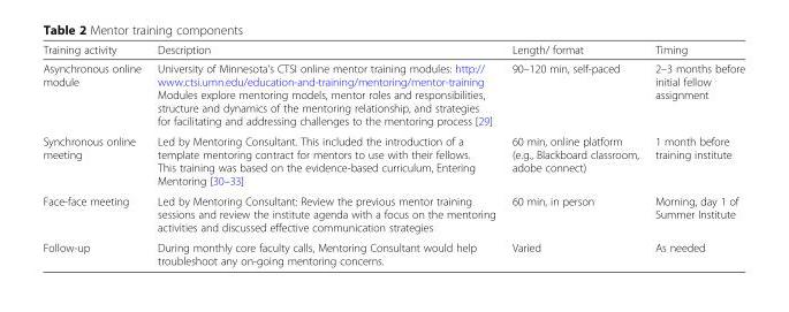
<table><thead><tr><td>Training activity</td><td>Description</td><td>Length/ format</td><td>Timing</td></tr></thead><tbody><tr><td>Asynchronous online module</td><td>University of Minnesota’s CTSI online mentor training modules: http:// www.ctsi.umn.edu/education-and-training/mentoring/mentor-training Modules explore mentoring models, mentor roles and responsibilities, structure and dynamics of the mentoring relationship, and strategies for facilitating and addressing challenges to the mentoring process [29]</td><td>90–120 min, self-paced</td><td>2–3 months before initial fellow assignment</td></tr><tr><td>Synchronous online meeting</td><td>Led by Mentoring Consultant. This included the introduction of a template mentoring contract for mentors to use with their fellows. This training was based on the evidence-based curriculum, Entering Mentoring [30–33]</td><td>60 min, online platform (e.g., Blackboard classroom, adobe connect)</td><td>1 month before training institute</td></tr><tr><td>Face-face meeting</td><td>Led by Mentoring Consultant: Review the previous mentor training sessions and review the institute agenda with a focus on the mentoring activities and discussed effective communication strategies</td><td>60 min, in person</td><td>Morning, day 1 of Summer Institute</td></tr><tr><td>Follow-up</td><td>During monthly core faculty calls, Mentoring Consultant would help troubleshoot any on-going mentoring concerns.</td><td>Varied</td><td>As needed</td></tr></tbody></table>